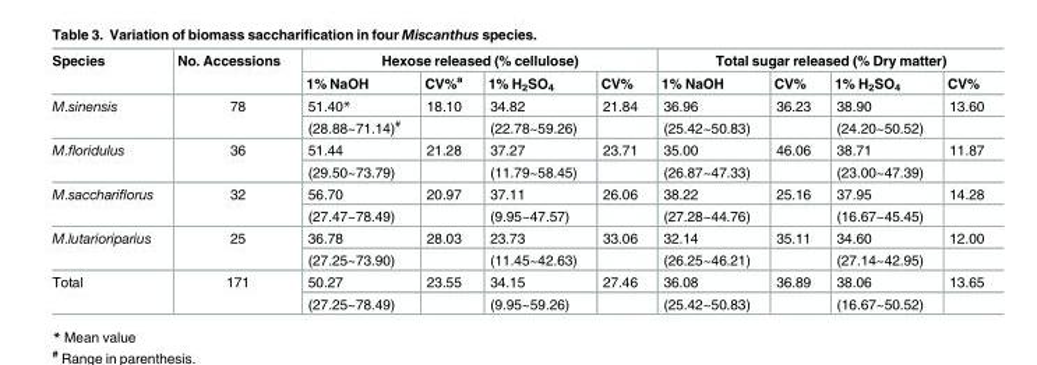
<table><thead><tr><td rowspan="2">Species</td><td rowspan="2">No. Accessions</td><td colspan="4">Hexose released (% cellulose)</td><td colspan="4">Total sugar released (% Dry matter)</td></tr><tr><td>1% NaOH</td><td>CV%<sup>a</sup></td><td>1% H<sub>2</sub>SO<sub>4</sub></td><td>CV%</td><td>1% NaOH</td><td>CV%</td><td>1% H<sub>2</sub>SO<sub>4</sub></td><td>CV%</td></tr></thead><tbody><tr><td rowspan="2">M.sinensis</td><td rowspan="2">78</td><td>51.40*</td><td>18.10</td><td>34.82</td><td>21.84</td><td>36.96</td><td>36.23</td><td>38.90</td><td>13.60</td></tr><tr><td>(28.88~71.14)<sup>#</sup></td><td></td><td>(22.78~59.26)</td><td></td><td>(25.42~50.83)</td><td></td><td>(24.20~50.52)</td><td></td></tr><tr><td rowspan="2">M.floridulus</td><td rowspan="2">36</td><td>51.44</td><td>21.28</td><td>37.27</td><td>23.71</td><td>35.00</td><td>46.06</td><td>38.71</td><td>11.87</td></tr><tr><td>(29.50~73.79)</td><td></td><td>(11.79~58.45)</td><td></td><td>(26.87~47.33)</td><td></td><td>(23.00~47.39)</td><td></td></tr><tr><td rowspan="2">M.sacchariflorus</td><td rowspan="2">32</td><td>56.70</td><td>20.97</td><td>37.11</td><td>26.06</td><td>38.22</td><td>25.16</td><td>37.95</td><td>14.28</td></tr><tr><td>(27.47~78.49)</td><td></td><td>(9.95~47.57)</td><td></td><td>(27.28~44.76)</td><td></td><td>(16.67~45.45)</td><td></td></tr><tr><td rowspan="2">M.lutarioriparius</td><td rowspan="2">25</td><td>36.78</td><td>28.03</td><td>23.73</td><td>33.06</td><td>32.14</td><td>35.11</td><td>34.60</td><td>12.00</td></tr><tr><td>(27.25~73.90)</td><td></td><td>(11.45~42.63)</td><td></td><td>(26.25~46.21)</td><td></td><td>(27.14~42.95)</td><td></td></tr><tr><td rowspan="2">Total</td><td rowspan="2">171</td><td>50.27</td><td>23.55</td><td>34.15</td><td>27.46</td><td>36.08</td><td>36.89</td><td>38.06</td><td>13.65</td></tr><tr><td>(27.25~78.49)</td><td></td><td>(9.95~59.26)</td><td></td><td>(25.42~50.83)</td><td></td><td>(16.67~50.52)</td><td></td></tr></tbody></table>